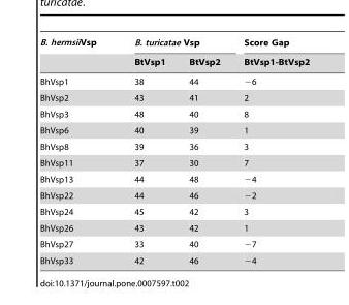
<table><thead><tr><td rowspan="2">B. hermsiiVsp</td><td colspan="2">B. turicatae Vsp</td><td rowspan="2">Score Gap BtVsp1-BtVsp2</td></tr><tr><td>BtVsp1</td><td>BtVsp2</td></tr></thead><tbody><tr><td>BhVsp1</td><td>38</td><td>44</td><td>−6</td></tr><tr><td>BhVsp2</td><td>43</td><td>41</td><td>2</td></tr><tr><td>BhVsp3</td><td>48</td><td>40</td><td>8</td></tr><tr><td>BhVsp6</td><td>40</td><td>39</td><td>1</td></tr><tr><td>BhVsp8</td><td>39</td><td>36</td><td>3</td></tr><tr><td>BhVsp11</td><td>37</td><td>30</td><td>7</td></tr><tr><td>BhVsp13</td><td>44</td><td>48</td><td>−4</td></tr><tr><td>BhVsp22</td><td>44</td><td>46</td><td>−2</td></tr><tr><td>BhVsp24</td><td>45</td><td>42</td><td>3</td></tr><tr><td>BhVsp26</td><td>43</td><td>42</td><td>1</td></tr><tr><td>BhVsp27</td><td>33</td><td>40</td><td>−7</td></tr><tr><td>BhVsp33</td><td>42</td><td>46</td><td>−4</td></tr></tbody></table>